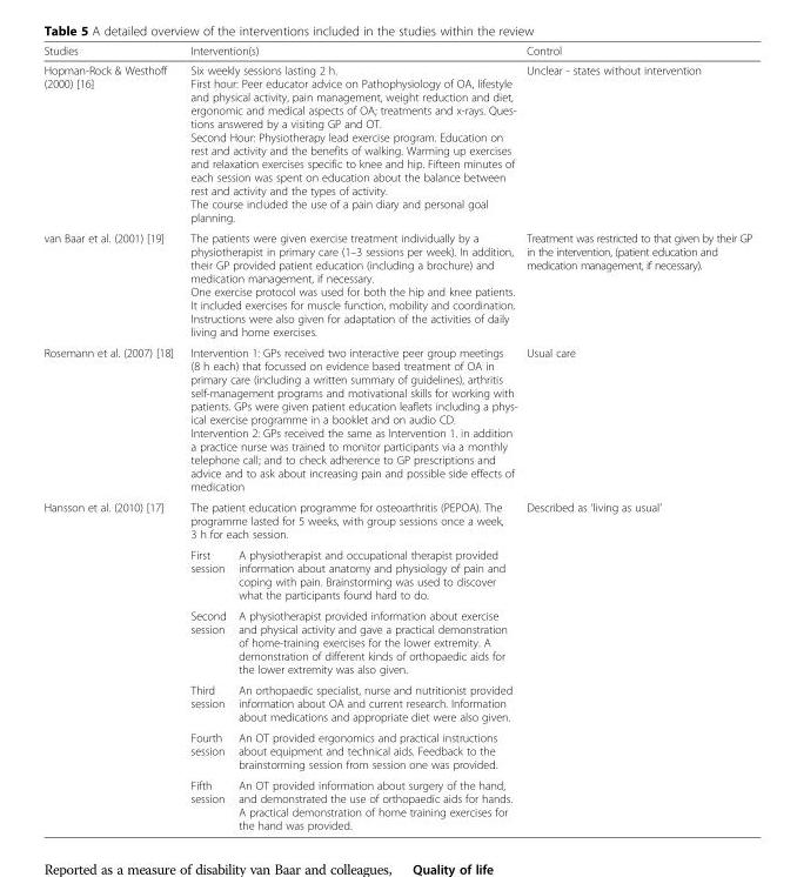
<table><thead><tr><td>Studies</td><td colspan="2">Intervention(s)</td><td>Control</td></tr></thead><tbody><tr><td>Hopman-Rock &amp; Westhoff (2000) [16]</td><td colspan="2">Six weekly sessions lasting 2 h. First hour: Peer educator advice on Pathophysiology of OA, lifestyle and physical activity, pain management, weight reduction and diet, ergonomic and medical aspects of OA; treatments and x-rays. Ques- tions answered by a visiting GP and OT. Second Hour: Physiotherapy lead exercise program. Education on rest and activity and the benefits of walking. Warming up exercises and relaxation exercises specific to knee and hip. Fifteen minutes of each session was spent on education about the balance between rest and activity and the types of activity. The course included the use of a pain diary and personal goal planning.</td><td>Unclear - states without intervention</td></tr><tr><td>van Baar et al. (2001) [19]</td><td colspan="2">The patients were given exercise treatment individually by a physiotherapist in primary care (1–3 sessions per week). In addition, their GP provided patient education (including a brochure) and medication management, if necessary. One exercise protocol was used for both the hip and knee patients. It included exercises for muscle function, mobility and coordination. Instructions were also given for adaptation of the activities of daily living and home exercises.</td><td>Treatment was restricted to that given by their GP in the intervention, (patient education and medication management, if necessary).</td></tr><tr><td>Rosemann et al. (2007) [18]</td><td colspan="2">Intervention 1: GPs received two interactive peer group meetings (8 h each) that focussed on evidence based treatment of OA in primary care (including a written summary of guidelines), arthritis self-management programs and motivational skills for working with patients. GPs were given patient education leaflets including a phys- ical exercise programme in a booklet and on audio CD. Intervention 2: GPs received the same as Intervention 1. in addition a practice nurse was trained to monitor participants via a monthly telephone call; and to check adherence to GP prescriptions and advice and to ask about increasing pain and possible side effects of medication</td><td>Usual care</td></tr><tr><td rowspan="6">Hansson et al. (2010) [17]</td><td colspan="2">The patient education programme for osteoarthritis (PEPOA). The programme lasted for 5 weeks, with group sessions once a week, 3 h for each session.</td><td rowspan="6">Described as ‘living as usual’</td></tr><tr><td>First session</td><td>A physiotherapist and occupational therapist provided information about anatomy and physiology of pain and coping with pain. Brainstorming was used to discover what the participants found hard to do.</td></tr><tr><td>Second session</td><td>A physiotherapist provided information about exercise and physical activity and gave a practical demonstration of home-training exercises for the lower extremity. A demonstration of different kinds of orthopaedic aids for the lower extremity was also given.</td></tr><tr><td>Third session</td><td>An orthopaedic specialist, nurse and nutritionist provided information about OA and current research. Information about medications and appropriate diet were also given.</td></tr><tr><td>Fourth session</td><td>An OT provided ergonomics and practical instructions about equipment and technical aids. Feedback to the brainstorming session from session one was provided.</td></tr><tr><td>Fifth session</td><td>An OT provided information about surgery of the hand, and demonstrated the use of orthopaedic aids for hands. A practical demonstration of home training exercises for the hand was provided.</td></tr></tbody></table>